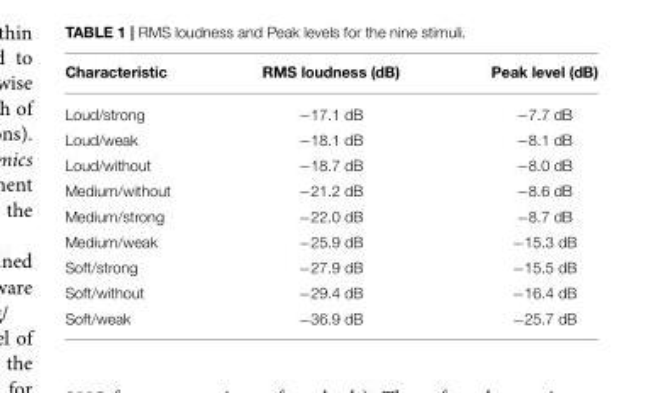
<table><thead><tr><td>Characteristic</td><td>RMS loudness (dB)</td><td>Peak level (dB)</td></tr></thead><tbody><tr><td>Loud/strong</td><td>−17.1 dB</td><td>−7.7 dB</td></tr><tr><td>Loud/weak</td><td>−18.1 dB</td><td>−8.1 dB</td></tr><tr><td>Loud/without</td><td>−18.7 dB</td><td>−8.0 dB</td></tr><tr><td>Medium/without</td><td>−21.2 dB</td><td>−8.6 dB</td></tr><tr><td>Medium/strong</td><td>−22.0 dB</td><td>−8.7 dB</td></tr><tr><td>Medium/weak</td><td>−25.9 dB</td><td>−15.3 dB</td></tr><tr><td>Soft/strong</td><td>−27.9 dB</td><td>−15.5 dB</td></tr><tr><td>Soft/without</td><td>−29.4 dB</td><td>−16.4 dB</td></tr><tr><td>Soft/weak</td><td>−36.9 dB</td><td>−25.7 dB</td></tr></tbody></table>